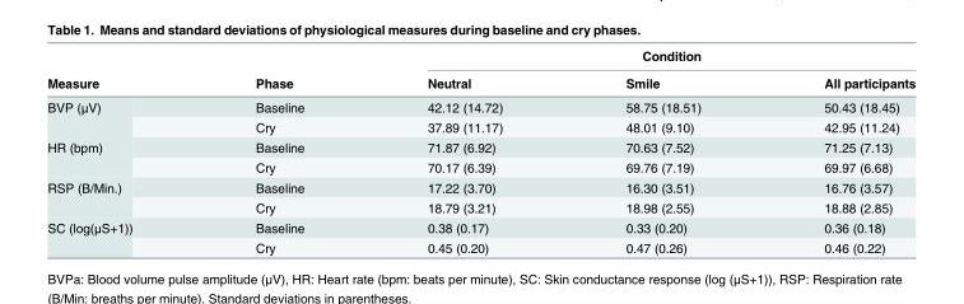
<table><thead><tr><td rowspan="2">Measure</td><td rowspan="2">Phase</td><td colspan="3">Condition</td></tr><tr><td>Neutral</td><td>Smile</td><td>All participants</td></tr></thead><tbody><tr><td rowspan="2">BVP (μV)</td><td>Baseline</td><td>42.12 (14.72)</td><td>58.75 (18.51)</td><td>50.43 (18.45)</td></tr><tr><td>Cry</td><td>37.89 (11.17)</td><td>48.01 (9.10)</td><td>42.95 (11.24)</td></tr><tr><td rowspan="2">HR (bpm)</td><td>Baseline</td><td>71.87 (6.92)</td><td>70.63 (7.52)</td><td>71.25 (7.13)</td></tr><tr><td>Cry</td><td>70.17 (6.39)</td><td>69.76 (7.19)</td><td>69.97 (6.68)</td></tr><tr><td rowspan="2">RSP (B/Min.)</td><td>Baseline</td><td>17.22 (3.70)</td><td>16.30 (3.51)</td><td>16.76 (3.57)</td></tr><tr><td>Cry</td><td>18.79 (3.21)</td><td>18.98 (2.55)</td><td>18.88 (2.85)</td></tr><tr><td rowspan="2">SC (log(μS+1))</td><td>Baseline</td><td>0.38 (0.17)</td><td>0.33 (0.20)</td><td>0.36 (0.18)</td></tr><tr><td>Cry</td><td>0.45 (0.20)</td><td>0.47 (0.26)</td><td>0.46 (0.22)</td></tr></tbody></table>